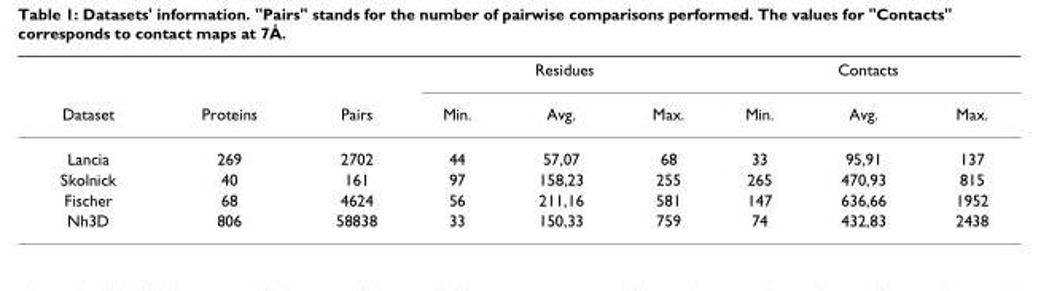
<table><thead><tr><td rowspan="2">Dataset</td><td rowspan="2">Proteins</td><td rowspan="2">Pairs</td><td colspan="3">Residues</td><td colspan="3">Contacts</td></tr><tr><td>Min.</td><td>Avg.</td><td>Max.</td><td>Min.</td><td>Avg.</td><td>Max.</td></tr></thead><tbody><tr><td>Lancia</td><td>269</td><td>2702</td><td>44</td><td>57,07</td><td>68</td><td>33</td><td>95,91</td><td>137</td></tr><tr><td>Skolnick</td><td>40</td><td>161</td><td>97</td><td>158,23</td><td>255</td><td>265</td><td>470,93</td><td>815</td></tr><tr><td>Fischer</td><td>68</td><td>4624</td><td>56</td><td>211,16</td><td>581</td><td>147</td><td>636,66</td><td>1952</td></tr><tr><td>Nh3D</td><td>806</td><td>58838</td><td>33</td><td>150,33</td><td>759</td><td>74</td><td>432,83</td><td>2438</td></tr></tbody></table>